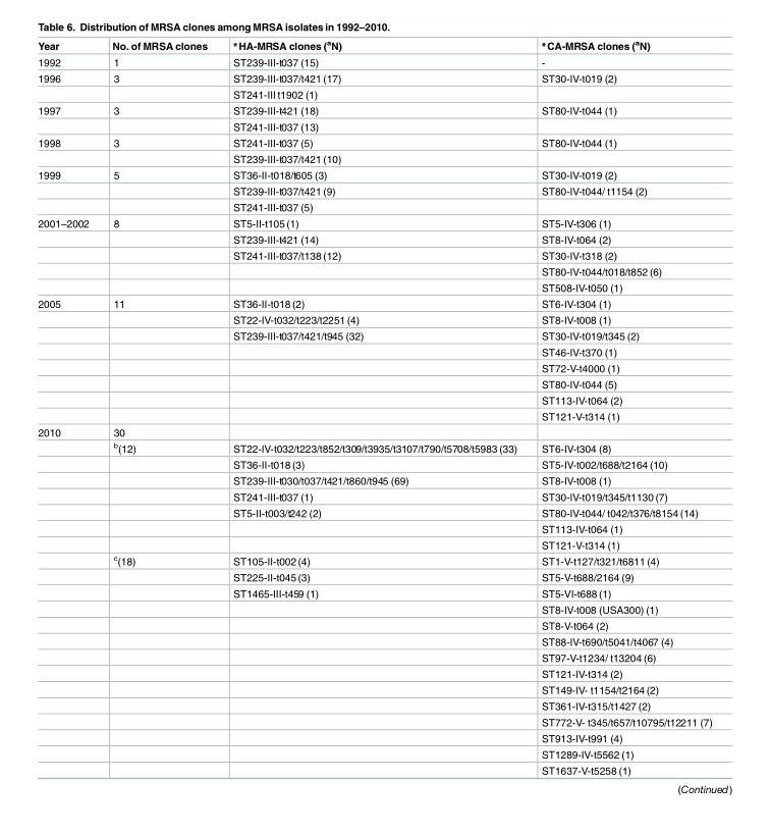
<table><thead><tr><td>Year</td><td>No. of MRSA clones</td><td>*HA-MRSA clones (aN)</td><td>*CA-MRSA clones (aN)</td></tr></thead><tbody><tr><td>1992</td><td>1</td><td>ST239-III-t037 (15)</td><td>-</td></tr><tr><td rowspan="2">1996</td><td>3</td><td>ST239-III-t037/t421 (17)</td><td>ST30-IV-t019 (2)</td></tr><tr><td></td><td>ST241-III t1902 (1)</td><td></td></tr><tr><td rowspan="2">1997</td><td>3</td><td>ST239-III-t421 (18)</td><td>ST80-IV-t044 (1)</td></tr><tr><td></td><td>ST241-III-t037 (13)</td><td></td></tr><tr><td rowspan="2">1998</td><td>3</td><td>ST241-III-t037 (5)</td><td>ST80-IV-t044 (1)</td></tr><tr><td></td><td>ST239-III-t037/t421 (10)</td><td></td></tr><tr><td rowspan="3">1999</td><td>5</td><td>ST36-II-t018/t605 (3)</td><td>ST30-IV-t019 (2)</td></tr><tr><td></td><td>ST239-III-t037/t421 (9)</td><td>ST80-IV-t044/ t1154 (2)</td></tr><tr><td></td><td>ST241-III-t037 (5)</td><td></td></tr><tr><td rowspan="5">2001–2002</td><td>8</td><td>ST5-II-t105 (1)</td><td>ST5-IV-t306 (1)</td></tr><tr><td></td><td>ST239-III-t421 (14)</td><td>ST8-IV-t064 (2)</td></tr><tr><td></td><td>ST241-III-t037/t138 (12)</td><td>ST30-IV-t318 (2)</td></tr><tr><td></td><td></td><td>ST80-IV-t044/t018/t852 (6)</td></tr><tr><td></td><td></td><td>ST508-IV-t050 (1)</td></tr><tr><td rowspan="8">2005</td><td>11</td><td>ST36-II-t018(2)</td><td>ST6-IV-t304 (1)</td></tr><tr><td></td><td>ST22-IV-t032/t223/t2251 (4)</td><td>ST8-IV-t008 (1)</td></tr><tr><td></td><td>ST239-III-t037/t421/t945 (32)</td><td>ST30-IV-t019/t345 (2)</td></tr><tr><td></td><td></td><td>ST46-IV-t370 (1)</td></tr><tr><td></td><td></td><td>ST72-V-t4000 (1)</td></tr><tr><td></td><td></td><td>ST80-IV-t044 (5)</td></tr><tr><td></td><td></td><td>ST113-IV-t064 (2)</td></tr><tr><td></td><td></td><td>ST121-V-t314 (1)</td></tr><tr><td rowspan="23">2010</td><td>30</td><td></td><td></td></tr><tr><td>b(12)</td><td>ST22-IV-t032/t223/t852/t309/t3935/t3107/t790/t5708/t5983 (33)</td><td>ST6-IV-t304 (8)</td></tr><tr><td></td><td>ST36-II-t018(3)</td><td>ST5-IV-t002/t688/t2164 (10)</td></tr><tr><td></td><td>ST239-III-t030/t037/t421/t860/t945 (69)</td><td>ST8-IV-t008 (1)</td></tr><tr><td></td><td>ST241-III-t037 (1)</td><td>ST30-IV-t019/t345/t1130 (7)</td></tr><tr><td></td><td>ST5-II-t003/t242 (2)</td><td>ST80-IV-t044/ t042/t376/t8154 (14)</td></tr><tr><td></td><td></td><td>ST113-IV-t064 (1)</td></tr><tr><td></td><td></td><td>ST121-V-t314 (1)</td></tr><tr><td>c(18)</td><td>ST105-II-t002(4)</td><td>ST1-V-t127/t321/t6811 (4)</td></tr><tr><td></td><td>ST225-II-t045(3)</td><td>ST5-V-t688/2164 (9)</td></tr><tr><td></td><td>ST1465-III-t459 (1)</td><td>ST5-VI-t688 (1)</td></tr><tr><td></td><td></td><td>ST8-IV-t008 (USA300) (1)</td></tr><tr><td></td><td></td><td>ST8-V-t064 (2)</td></tr><tr><td></td><td></td><td>ST88-IV-t690/t5041/t4067 (4)</td></tr><tr><td></td><td></td><td>ST97-V-t1234/ t13204 (6)</td></tr><tr><td></td><td></td><td>ST121-IV-t314 (2)</td></tr><tr><td></td><td></td><td>ST149-IV- t1154/t2164 (2)</td></tr><tr><td></td><td></td><td>ST361-IV-t315/t1427 (2)</td></tr><tr><td></td><td></td><td>ST772-V- t345/t657/t10795/t12211 (7)</td></tr><tr><td></td><td></td><td>ST913-IV-t991 (4)</td></tr><tr><td></td><td></td><td>ST1289-IV-t5562 (1)</td></tr><tr><td></td><td></td><td>ST1637-V-t5258 (1)</td></tr><tr><td></td><td></td><td>(Continued)</td></tr></tbody></table>